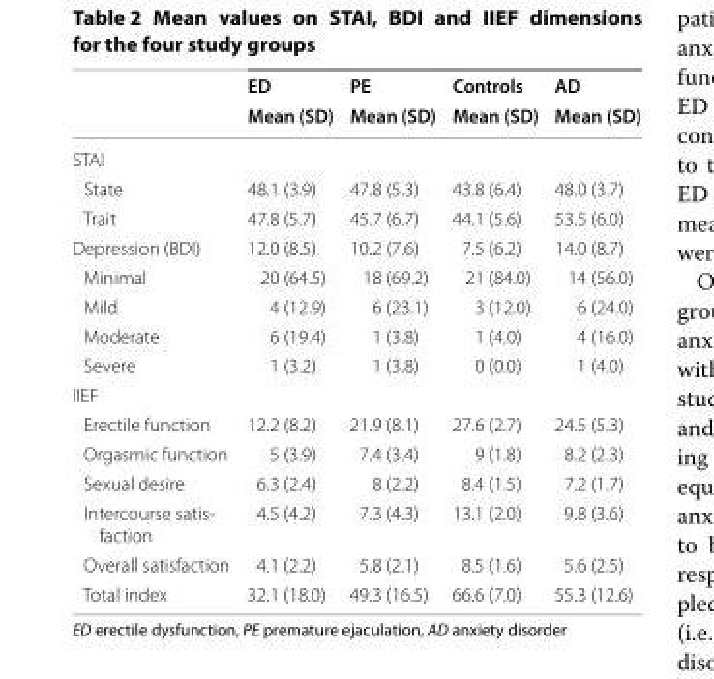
<table><thead><tr><td rowspan="2"></td><td rowspan="2">ED Mean (SD)</td><td rowspan="2">PE Mean (SD)</td><td rowspan="2">Controls Mean (SD)</td><td rowspan="2">AD Mean (SD)</td></tr><tr></tr></thead><tbody><tr><td colspan="5">STAI</td></tr><tr><td>State</td><td>48.1 (3.9)</td><td>47.8 (5.3)</td><td>43.8 (6.4)</td><td>48.0 (3.7)</td></tr><tr><td>Trait</td><td>47.8 (5.7)</td><td>45.7 (6.7)</td><td>44.1 (5.6)</td><td>53.5 (6.0)</td></tr><tr><td>Depression (BDI)</td><td>12.0 (8.5)</td><td>10.2 (7.6)</td><td>7.5 (6.2)</td><td>14.0 (8.7)</td></tr><tr><td>Minimal</td><td>20 (64.5)</td><td>18 (69.2)</td><td>21 (84.0)</td><td>14 (56.0)</td></tr><tr><td>Mild</td><td>4 (12.9)</td><td>6 (23.1)</td><td>3 (12.0)</td><td>6 (24.0)</td></tr><tr><td>Moderate</td><td>6 (19.4)</td><td>1 (3.8)</td><td>1 (4.0)</td><td>4 (16.0)</td></tr><tr><td>Severe</td><td>1 (3.2)</td><td>1 (3.8)</td><td>0 (0.0)</td><td>1 (4.0)</td></tr><tr><td colspan="5">IIEF</td></tr><tr><td>Erectile function</td><td>12.2 (8.2)</td><td>21.9 (8.1)</td><td>27.6 (2.7)</td><td>24.5 (5.3)</td></tr><tr><td>Orgasmic function</td><td>5 (3.9)</td><td>7.4 (3.4)</td><td>9 (1.8)</td><td>8.2 (2.3)</td></tr><tr><td>Sexual desire</td><td>6.3 (2.4)</td><td>8 (2.2)</td><td>8.4 (1.5)</td><td>7.2 (1.7)</td></tr><tr><td>Intercourse satis- faction</td><td>4.5 (4.2)</td><td>7.3 (4.3)</td><td>13.1 (2.0)</td><td>9.8 (3.6)</td></tr><tr><td>Overall satisfaction</td><td>4.1 (2.2)</td><td>5.8 (2.1)</td><td>8.5 (1.6)</td><td>5.6 (2.5)</td></tr><tr><td>Total index</td><td>32.1 (18.0)</td><td>49.3 (16.5)</td><td>66.6 (7.0)</td><td>55.3 (12.6)</td></tr></tbody></table>